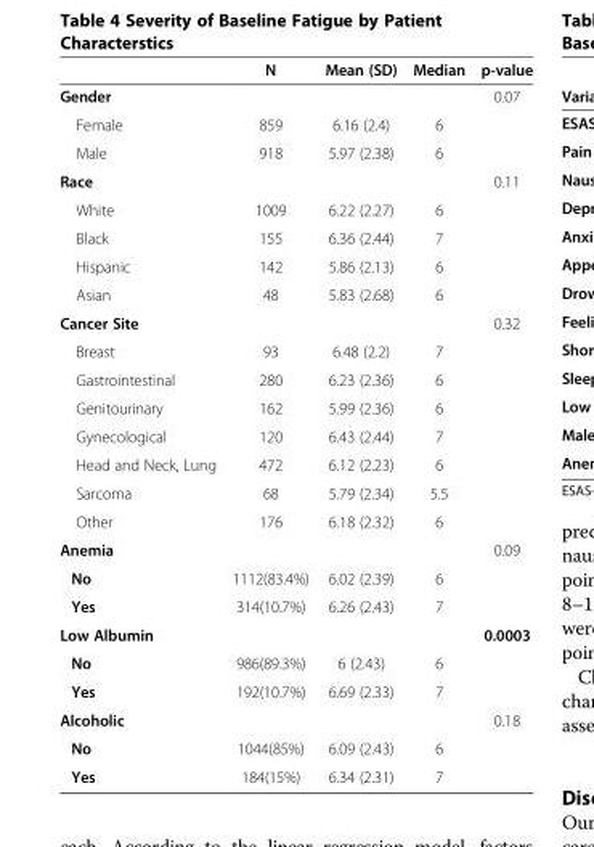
<table><thead><tr><td></td><td>N</td><td>Mean (SD)</td><td>Median</td><td>p-value</td></tr></thead><tbody><tr><td>Gender</td><td></td><td></td><td></td><td>0.07</td></tr><tr><td>Female</td><td>859</td><td>6.16 (2.4)</td><td>6</td><td></td></tr><tr><td>Male</td><td>918</td><td>5.97 (2.38)</td><td>6</td><td></td></tr><tr><td>Race</td><td></td><td></td><td></td><td>0.11</td></tr><tr><td>White</td><td>1009</td><td>6.22 (2.27)</td><td>6</td><td></td></tr><tr><td>Black</td><td>155</td><td>6.36 (2.44)</td><td>7</td><td></td></tr><tr><td>Hispanic</td><td>142</td><td>5.86 (2.13)</td><td>6</td><td></td></tr><tr><td>Asian</td><td>48</td><td>5.83 (2.68)</td><td>6</td><td></td></tr><tr><td>Cancer Site</td><td></td><td></td><td></td><td>0.32</td></tr><tr><td>Breast</td><td>93</td><td>6.48 (2.2)</td><td>7</td><td></td></tr><tr><td>Gastrointestinal</td><td>280</td><td>6.23 (2.36)</td><td>6</td><td></td></tr><tr><td>Genitourinary</td><td>162</td><td>5.99 (2.36)</td><td>6</td><td></td></tr><tr><td>Gynecological</td><td>120</td><td>6.43 (2.44)</td><td>7</td><td></td></tr><tr><td>Head and Neck, Lung</td><td>472</td><td>6.12 (2.23)</td><td>6</td><td></td></tr><tr><td>Sarcoma</td><td>68</td><td>5.79 (2.34)</td><td>5.5</td><td></td></tr><tr><td>Other</td><td>176</td><td>6.18 (2.32)</td><td>6</td><td></td></tr><tr><td>Anemia</td><td></td><td></td><td></td><td>0.09</td></tr><tr><td>No</td><td>1112(83.4%)</td><td>6.02 (2.39)</td><td>6</td><td></td></tr><tr><td>Yes</td><td>314(10.7%)</td><td>6.26 (2.43)</td><td>7</td><td></td></tr><tr><td>Low Albumin</td><td></td><td></td><td></td><td>0.0003</td></tr><tr><td>No</td><td>986(89.3%)</td><td>6 (2.43)</td><td>6</td><td></td></tr><tr><td>Yes</td><td>192(10.7%)</td><td>6.69 (2.33)</td><td>7</td><td></td></tr><tr><td>Alcoholic</td><td></td><td></td><td></td><td>0.18</td></tr><tr><td>No</td><td>1044(85%)</td><td>6.09 (2.43)</td><td>6</td><td></td></tr><tr><td>Yes</td><td>184(15%)</td><td>6.34 (2.31)</td><td>7</td><td></td></tr></tbody></table>